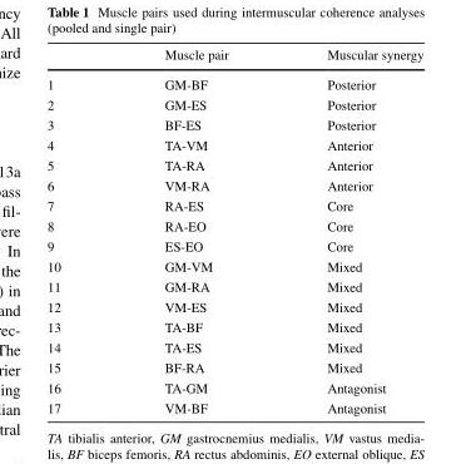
<table><thead><tr><td></td><td>Muscle pair</td><td>Muscular synergy</td></tr></thead><tbody><tr><td>1</td><td>GM-BF</td><td>Posterior</td></tr><tr><td>2</td><td>GM-ES</td><td>Posterior</td></tr><tr><td>3</td><td>BF-ES</td><td>Posterior</td></tr><tr><td>4</td><td>TA-VM</td><td>Anterior</td></tr><tr><td>5</td><td>TA-RA</td><td>Anterior</td></tr><tr><td>6</td><td>VM-RA</td><td>Anterior</td></tr><tr><td>7</td><td>RA-ES</td><td>Core</td></tr><tr><td>8</td><td>RA-EO</td><td>Core</td></tr><tr><td>9</td><td>ES-EO</td><td>Core</td></tr><tr><td>10</td><td>GM-VM</td><td>Mixed</td></tr><tr><td>11</td><td>GM-RA</td><td>Mixed</td></tr><tr><td>12</td><td>VM-ES</td><td>Mixed</td></tr><tr><td>13</td><td>TA-BF</td><td>Mixed</td></tr><tr><td>14</td><td>TA-ES</td><td>Mixed</td></tr><tr><td>15</td><td>BF-RA</td><td>Mixed</td></tr><tr><td>16</td><td>TA-GM</td><td>Antagonist</td></tr><tr><td>17</td><td>VM-BF</td><td>Antagonist</td></tr></tbody></table>